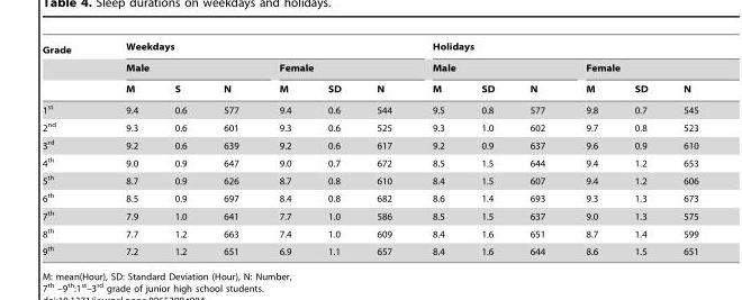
<table><thead><tr><td rowspan="3">Grade</td><td colspan="6">Weekdays</td><td colspan="6">Holidays</td></tr><tr><td colspan="3">Male</td><td colspan="3">Female</td><td colspan="3">Male</td><td colspan="3">Female</td></tr><tr><td>M</td><td>S</td><td>N</td><td>M</td><td>SD</td><td>N</td><td>M</td><td>SD</td><td>N</td><td>M</td><td>SD</td><td>N</td></tr></thead><tbody><tr><td>1<sup>st</sup></td><td>9.4</td><td>0.6</td><td>577</td><td>9.4</td><td>0.6</td><td>544</td><td>9.5</td><td>0.8</td><td>577</td><td>9.8</td><td>0.7</td><td>545</td></tr><tr><td>2<sup>nd</sup></td><td>9.3</td><td>0.6</td><td>601</td><td>9.3</td><td>0.6</td><td>525</td><td>9.3</td><td>1.0</td><td>602</td><td>9.7</td><td>0.8</td><td>523</td></tr><tr><td>3<sup>rd</sup></td><td>9.2</td><td>0.6</td><td>639</td><td>9.2</td><td>0.6</td><td>617</td><td>9.2</td><td>0.9</td><td>637</td><td>9.6</td><td>0.9</td><td>610</td></tr><tr><td>4<sup>th</sup></td><td>9.0</td><td>0.9</td><td>647</td><td>9.0</td><td>0.7</td><td>672</td><td>8.5</td><td>1.5</td><td>644</td><td>9.4</td><td>1.2</td><td>653</td></tr><tr><td>5<sup>th</sup></td><td>8.7</td><td>0.9</td><td>626</td><td>8.7</td><td>0.8</td><td>610</td><td>8.4</td><td>1.5</td><td>607</td><td>9.4</td><td>1.2</td><td>606</td></tr><tr><td>6<sup>th</sup></td><td>8.5</td><td>0.9</td><td>697</td><td>8.4</td><td>0.8</td><td>682</td><td>8.6</td><td>1.4</td><td>693</td><td>9.3</td><td>1.3</td><td>673</td></tr><tr><td>7<sup>th</sup></td><td>7.9</td><td>1.0</td><td>641</td><td>7.7</td><td>1.0</td><td>586</td><td>8.5</td><td>1.5</td><td>637</td><td>9.0</td><td>1.3</td><td>575</td></tr><tr><td>8<sup>th</sup></td><td>7.7</td><td>1.2</td><td>663</td><td>7.4</td><td>1.0</td><td>609</td><td>8.4</td><td>1.6</td><td>651</td><td>8.7</td><td>1.4</td><td>599</td></tr><tr><td>9<sup>th</sup></td><td>7.2</td><td>1.2</td><td>651</td><td>6.9</td><td>1.1</td><td>657</td><td>8.4</td><td>1.6</td><td>644</td><td>8.6</td><td>1.5</td><td>651</td></tr></tbody></table>